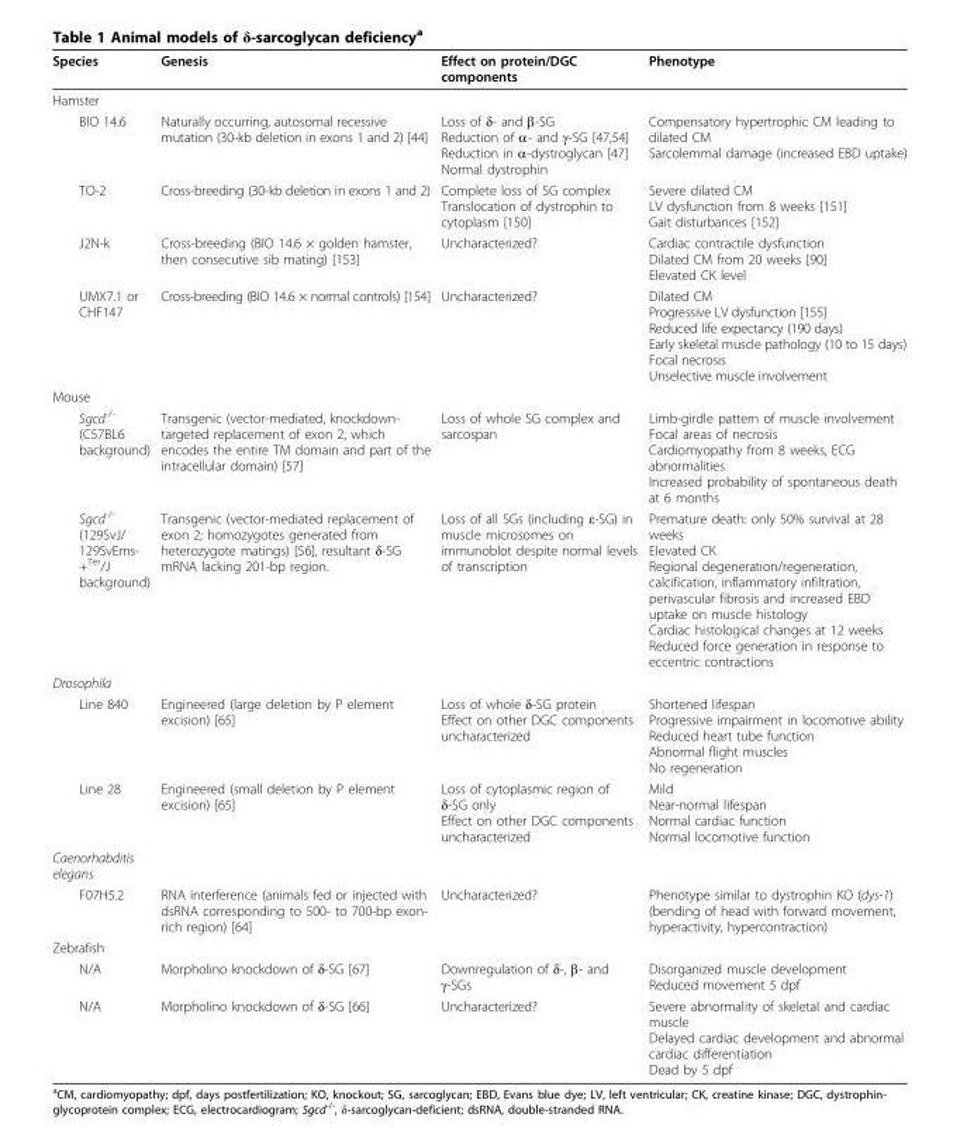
<table><thead><tr><td>Species</td><td>Genesis</td><td>Effect on protein/DGC components</td><td>Phenotype</td></tr></thead><tbody><tr><td colspan="4">Hamster</td></tr><tr><td>BIO 14.6</td><td>Naturally occurring, autosomal recessive mutation (30-kb deletion in exons 1 and 2) [44]</td><td>Loss of δ- and β-SG Reduction of α- and γ-SG [47,54] Reduction in α-dystroglycan [47] Normal dystrophin</td><td>Compensatory hypertrophic CM leading to dilated CM Sarcolemmal damage (increased EBD uptake)</td></tr><tr><td>TO-2</td><td>Cross-breeding (30-kb deletion in exons 1 and 2)</td><td>Complete loss of SG complex Translocation of dystrophin to cytoplasm [150]</td><td>Severe dilated CM LV dysfunction from 8 weeks [151] Gait disturbances [152]</td></tr><tr><td>J2N-k</td><td>Cross-breeding (BIO 14.6 × golden hamster, then consecutive sib mating) [153]</td><td>Uncharacterized?</td><td>Cardiac contractile dysfunction Dilated CM from 20 weeks [90] Elevated CK level</td></tr><tr><td>UMX7.1 or CHF147</td><td>Cross-breeding (BIO 14.6 × normal controls) [154]</td><td>Uncharacterized?</td><td>Dilated CM Progressive LV dysfunction [155] Reduced life expectancy (190 days) Early skeletal muscle pathology (10 to 15 days) Focal necrosis Unselective muscle involvement</td></tr><tr><td colspan="4">Mouse</td></tr><tr><td>Sgcd<sup>-/-</sup> (C57BL6 background)</td><td>Transgenic (vector-mediated, knockdown- targeted replacement of exon 2, which encodes the entire TM domain and part of the intracellular domain) [57]</td><td>Loss of whole SG complex and sarcospan</td><td>Limb-girdle pattern of muscle involvement Focal areas of necrosis Cardiomyopathy from 8 weeks, ECG abnormalities Increased probability of spontaneous death at 6 months</td></tr><tr><td>Sgcd<sup>-/-</sup> (129SvJ/ 129SvEms- +<sup>Ter</sup>/J background)</td><td>Transgenic (vector-mediated replacement of exon 2; homozygotes generated from heterozygote matings) [56], resultant δ-SG mRNA lacking 201-bp region.</td><td>Loss of all SGs (including ε-SG) in muscle microsomes on immunoblot despite normal levels of transcription</td><td>Premature death: only 50% survival at 28 weeks Elevated CK Regional degeneration/regeneration, calcification, inflammatory infiltration, perivascular fibrosis and increased EBD uptake on muscle histology Cardiac histological changes at 12 weeks Reduced force generation in response to eccentric contractions</td></tr><tr><td colspan="4">Drosophila</td></tr><tr><td>Line 840</td><td>Engineered (large deletion by P element excision) [65]</td><td>Loss of whole δ-SG protein Effect on other DGC components uncharacterized</td><td>Shortened lifespan Progressive impairment in locomotive ability Reduced heart tube function Abnormal flight muscles No regeneration</td></tr><tr><td>Line 28</td><td>Engineered (small deletion by P element excision) [65]</td><td>Loss of cytoplasmic region of δ-SG only Effect on other DGC components uncharacterized</td><td>Mild Near-normal lifespan Normal cardiac function Normal locomotive function</td></tr><tr><td colspan="4">Caenorhabditis elegans</td></tr><tr><td>F07H5.2</td><td>RNA interference (animals fed or injected with dsRNA corresponding to 500- to 700-bp exon- rich region) [64]</td><td>Uncharacterized?</td><td>Phenotype similar to dystrophin KO (dys-1) (bending of head with forward movement, hyperactivity, hypercontraction)</td></tr><tr><td colspan="4">Zebrafish</td></tr><tr><td>N/A</td><td>Morpholino knockdown of δ-SG [67]</td><td>Downregulation of δ-, β- and γ-SGs</td><td>Disorganized muscle development Reduced movement 5 dpf</td></tr><tr><td>N/A</td><td>Morpholino knockdown of δ-SG [66]</td><td>Uncharacterized?</td><td>Severe abnormality of skeletal and cardiac muscle Delayed cardiac development and abnormal cardiac differentiation Dead by 5 dpf</td></tr></tbody></table>